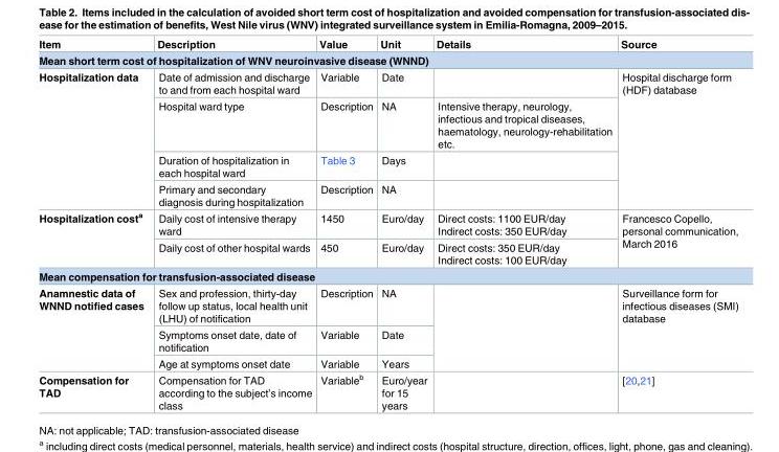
<table><thead><tr><td>Item</td><td>Description</td><td>Value</td><td>Unit</td><td>Details</td><td>Source</td></tr></thead><tbody><tr><td colspan="6">Mean short term cost of hospitalization of WNV neuroinvasive disease (WNND)</td></tr><tr><td rowspan="4">Hospitalization data</td><td>Date of admission and discharge to and from each hospital ward</td><td>Variable</td><td>Date</td><td></td><td rowspan="4">Hospital discharge form (HDF) database</td></tr><tr><td>Hospital ward type</td><td>Description</td><td>NA</td><td>Intensive therapy, neurology, infectious and tropical diseases, haematology, neurology-rehabilitation etc.</td></tr><tr><td>Duration of hospitalization in each hospital ward</td><td>Table 3</td><td>Days</td><td></td></tr><tr><td>Primary and secondary diagnosis during hospitalization</td><td>Description</td><td>NA</td><td></td></tr><tr><td rowspan="2">Hospitalization cost<sup>a</sup></td><td>Daily cost of intensive therapy ward</td><td>1450</td><td>Euro/day</td><td>Direct costs: 1100 EUR/day Indirect costs: 350 EUR/day</td><td rowspan="2">Francesco Copello, personal communication, March 2016</td></tr><tr><td>Daily cost of other hospital wards</td><td>450</td><td>Euro/day</td><td>Direct costs: 350 EUR/day Indirect costs: 100 EUR/day</td></tr><tr><td colspan="6">Mean compensation for transfusion-associated disease</td></tr><tr><td rowspan="3">Anamnestic data of WNND notified cases</td><td>Sex and profession, thirty-day follow up status, local health unit (LHU) of notification</td><td>Description</td><td>NA</td><td rowspan="3"></td><td rowspan="3">Surveillance form for infectious diseases (SMI) database</td></tr><tr><td>Symptoms onset date, date of notification</td><td>Variable</td><td>Date</td></tr><tr><td>Age at symptoms onset date</td><td>Variable</td><td>Years</td></tr><tr><td>Compensation for TAD</td><td>Compensation for TAD according to the subject’s income class</td><td>Variable<sup>b</sup></td><td>Euro/year for 15 years</td><td></td><td>[20,21]</td></tr></tbody></table>